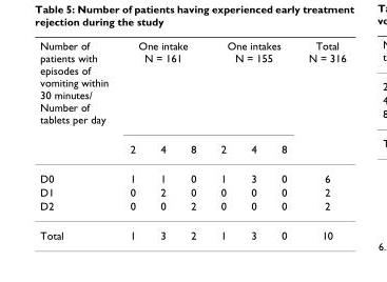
<table><thead><tr><td rowspan="2">Number of patients with episodes of vomiting within 30 minutes/ Number of tablets per day</td><td colspan="3">One intake N = 161</td><td colspan="3">One intakes N = 155</td><td rowspan="2">Total N = 316</td></tr><tr><td>2</td><td>4</td><td>8</td><td>2</td><td>4</td><td>8</td></tr></thead><tbody><tr><td>D0</td><td>1</td><td>1</td><td>0</td><td>1</td><td>3</td><td>0</td><td>6</td></tr><tr><td>D1</td><td>0</td><td>2</td><td>0</td><td>0</td><td>0</td><td>0</td><td>2</td></tr><tr><td>D2</td><td>0</td><td>0</td><td>2</td><td>0</td><td>0</td><td>0</td><td>2</td></tr><tr><td>Total</td><td>1</td><td>3</td><td>2</td><td>1</td><td>3</td><td>0</td><td>10</td></tr></tbody></table>